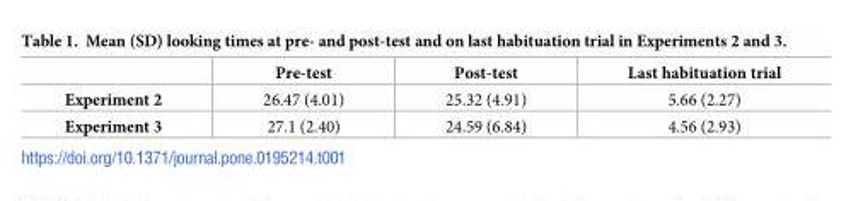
<table><thead><tr><td></td><td>Pre-test</td><td>Post-test</td><td>Last habituation trial</td></tr></thead><tbody><tr><td>Experiment 2</td><td>26.47 (4.01)</td><td>25.32 (4.91)</td><td>5.66 (2.27)</td></tr><tr><td>Experiment 3</td><td>27.1 (2.40)</td><td>24.59 (6.84)</td><td>4.56 (2.93)</td></tr></tbody></table>